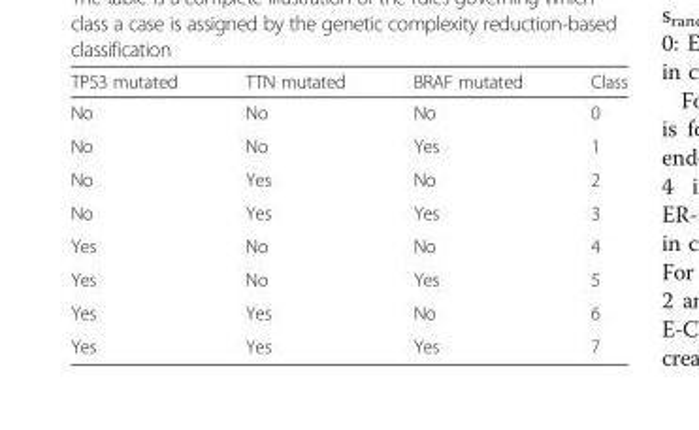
<table><thead><tr><td>TP53 mutated</td><td>TTN mutated</td><td>BRAF mutated</td><td>Class</td></tr></thead><tbody><tr><td>No</td><td>No</td><td>No</td><td>0</td></tr><tr><td>No</td><td>No</td><td>Yes</td><td>1</td></tr><tr><td>No</td><td>Yes</td><td>No</td><td>2</td></tr><tr><td>No</td><td>Yes</td><td>Yes</td><td>3</td></tr><tr><td>Yes</td><td>No</td><td>No</td><td>4</td></tr><tr><td>Yes</td><td>No</td><td>Yes</td><td>5</td></tr><tr><td>Yes</td><td>Yes</td><td>No</td><td>6</td></tr><tr><td>Yes</td><td>Yes</td><td>Yes</td><td>7</td></tr></tbody></table>